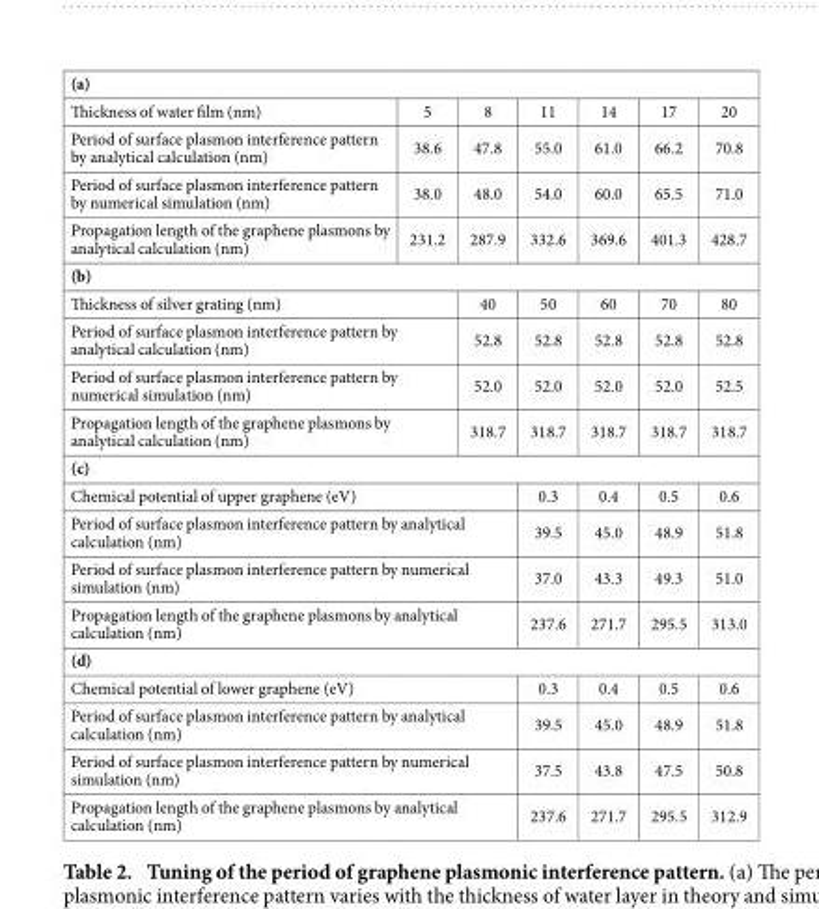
<table><tbody><tr><td colspan="7">(a)</td></tr><tr><td>Thickness of water film (nm)</td><td>5</td><td>8</td><td>11</td><td>14</td><td>17</td><td>20</td></tr><tr><td>Period of surface plasmon interference pattern by analytical calculation (nm)</td><td>38.6</td><td>47.8</td><td>55.0</td><td>61.0</td><td>66.2</td><td>70.8</td></tr><tr><td>Period of surface plasmon interference pattern by numerical simulation (nm)</td><td>38.0</td><td>48.0</td><td>54.0</td><td>60.0</td><td>65.5</td><td>71.0</td></tr><tr><td>Propagation length of the graphene plasmons by analytical calculation (nm)</td><td>231.2</td><td>287.9</td><td>332.6</td><td>369.6</td><td>401.3</td><td>428.7</td></tr><tr><td colspan="7">(b)</td></tr><tr><td colspan="2">Thickness of silver grating (nm)</td><td>40</td><td>50</td><td>60</td><td>70</td><td>80</td></tr><tr><td colspan="2">Period of surface plasmon interference pattern by analytical calculation (nm)</td><td>52.8</td><td>52.8</td><td>52.8</td><td>52.8</td><td>52.8</td></tr><tr><td colspan="2">Period of surface plasmon interference pattern by numerical simulation (nm)</td><td>52.0</td><td>52.0</td><td>52.0</td><td>52.0</td><td>52.5</td></tr><tr><td colspan="2">Propagation length of the graphene plasmons by analytical calculation (nm)</td><td>318.7</td><td>318.7</td><td>318.7</td><td>318.7</td><td>318.7</td></tr><tr><td colspan="7">(c)</td></tr><tr><td colspan="3">Chemical potential of upper graphene (eV)</td><td>0.3</td><td>0.4</td><td>0.5</td><td>0.6</td></tr><tr><td colspan="3">Period of surface plasmon interference pattern by analytical calculation (nm)</td><td>39.5</td><td>45.0</td><td>48.9</td><td>51.8</td></tr><tr><td colspan="3">Period of surface plasmon interference pattern by numerical simulation (nm)</td><td>37.0</td><td>43.3</td><td>49.3</td><td>51.0</td></tr><tr><td colspan="3">Propagation length of the graphene plasmons by analytical calculation (nm)</td><td>237.6</td><td>271.7</td><td>295.5</td><td>313.0</td></tr><tr><td colspan="7">(d)</td></tr><tr><td colspan="3">Chemical potential of lower graphene (eV)</td><td>0.3</td><td>0.4</td><td>0.5</td><td>0.6</td></tr><tr><td colspan="3">Period of surface plasmon interference pattern by analytical calculation (nm)</td><td>39.5</td><td>45.0</td><td>48.9</td><td>51.8</td></tr><tr><td colspan="3">Period of surface plasmon interference pattern by numerical simulation (nm)</td><td>37.5</td><td>43.8</td><td>47.5</td><td>50.8</td></tr><tr><td colspan="3">Propagation length of the graphene plasmons by analytical calculation (nm)</td><td>237.6</td><td>271.7</td><td>295.5</td><td>312.9</td></tr></tbody></table>